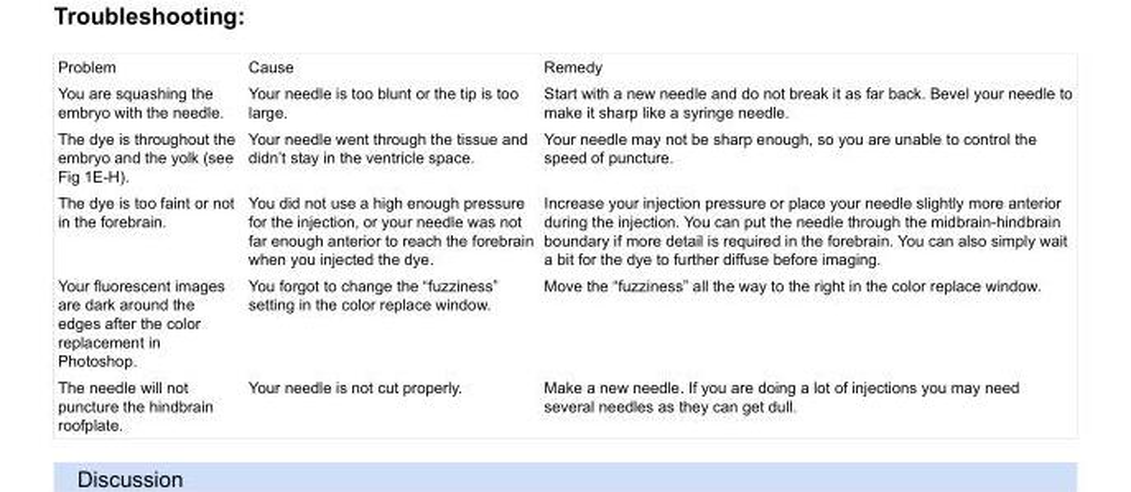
<table><tbody><tr><td>Problem</td><td>Cause</td><td>Remedy</td></tr><tr><td>You are squashing the embryo with the needle.</td><td>Your needle is too blunt or the tip is too large.</td><td>Start with a new needle and do not break it as far back. Bevel your needle to make it sharp like a syringe needle.</td></tr><tr><td>The dye is throughout the embryo and the yolk (see Fig 1E-H).</td><td>Your needle went through the tissue and didn’t stay in the ventricle space.</td><td>Your needle may not be sharp enough, so you are unable to control the speed of puncture.</td></tr><tr><td>The dye is too faint or not in the forebrain.</td><td>You did not use a high enough pressure for the injection, or your needle was not far enough anterior to reach the forebrain when you injected the dye.</td><td>Increase your injection pressure or place your needle slightly more anterior during the injection. You can put the needle through the midbrain-hindbrain boundary if more detail is required in the forebrain. You can also simply wait a bit for the dye to further diffuse before imaging.</td></tr><tr><td>Your fluorescent images are dark around the edges after the color replacement in Photoshop.</td><td>You forgot to change the “fuzziness” setting in the color replace window.</td><td>Move the “fuzziness” all the way to the right in the color replace window.</td></tr><tr><td>The needle will not puncture the hindbrain roofplate.</td><td>Your needle is not cut properly.</td><td>Make a new needle. If you are doing a lot of injections you may need several needles as they can get dull.</td></tr></tbody></table>